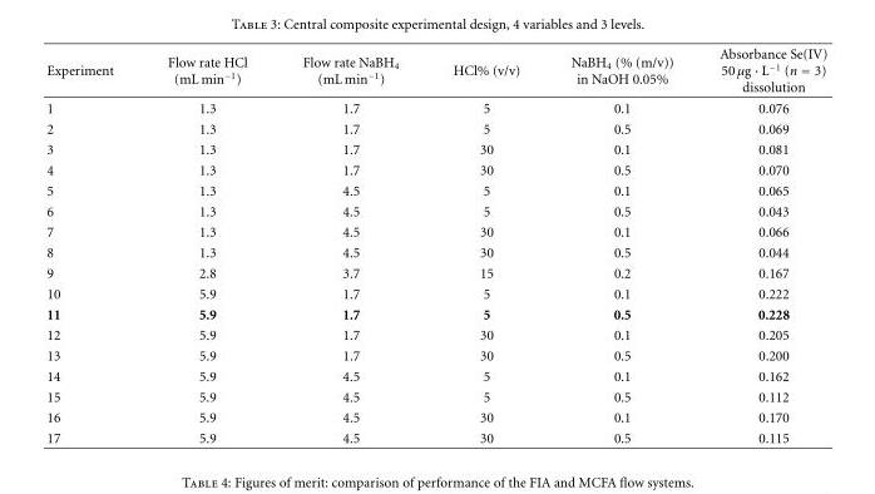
<table><thead><tr><td>Experiment</td><td>Flow rate HCl (mL min<sup>−1</sup>)</td><td>Flow rate NaBH<sub>4</sub> (mL min<sup>−1</sup>)</td><td>HCl% (v/v)</td><td>NaBH<sub>4</sub> (% (m/v)) in NaOH 0.05%</td><td>Absorbance Se(IV) 50 μg · L<sup>−1</sup> (n = 3) dissolution</td></tr></thead><tbody><tr><td>1</td><td>1.3</td><td>1.7</td><td>5</td><td>0.1</td><td>0.076</td></tr><tr><td>2</td><td>1.3</td><td>1.7</td><td>5</td><td>0.5</td><td>0.069</td></tr><tr><td>3</td><td>1.3</td><td>1.7</td><td>30</td><td>0.1</td><td>0.081</td></tr><tr><td>4</td><td>1.3</td><td>1.7</td><td>30</td><td>0.5</td><td>0.070</td></tr><tr><td>5</td><td>1.3</td><td>4.5</td><td>5</td><td>0.1</td><td>0.065</td></tr><tr><td>6</td><td>1.3</td><td>4.5</td><td>5</td><td>0.5</td><td>0.043</td></tr><tr><td>7</td><td>1.3</td><td>4.5</td><td>30</td><td>0.1</td><td>0.066</td></tr><tr><td>8</td><td>1.3</td><td>4.5</td><td>30</td><td>0.5</td><td>0.044</td></tr><tr><td>9</td><td>2.8</td><td>3.7</td><td>15</td><td>0.2</td><td>0.167</td></tr><tr><td>10</td><td>5.9</td><td>1.7</td><td>5</td><td>0.1</td><td>0.222</td></tr><tr><td>11</td><td>5.9</td><td>1.7</td><td>5</td><td>0.5</td><td>0.228</td></tr><tr><td>12</td><td>5.9</td><td>1.7</td><td>30</td><td>0.1</td><td>0.205</td></tr><tr><td>13</td><td>5.9</td><td>1.7</td><td>30</td><td>0.5</td><td>0.200</td></tr><tr><td>14</td><td>5.9</td><td>4.5</td><td>5</td><td>0.1</td><td>0.162</td></tr><tr><td>15</td><td>5.9</td><td>4.5</td><td>5</td><td>0.5</td><td>0.112</td></tr><tr><td>16</td><td>5.9</td><td>4.5</td><td>30</td><td>0.1</td><td>0.170</td></tr><tr><td>17</td><td>5.9</td><td>4.5</td><td>30</td><td>0.5</td><td>0.115</td></tr></tbody></table>